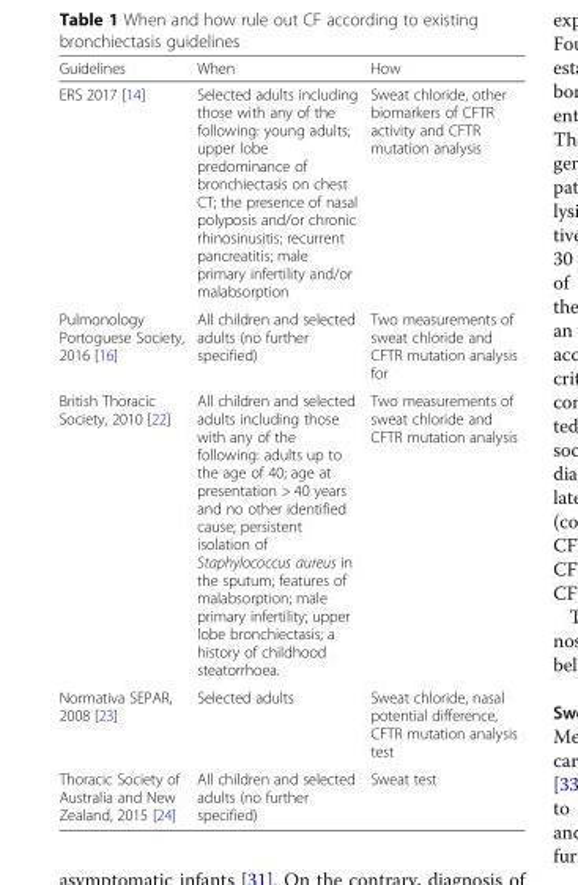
<table><thead><tr><td>Guidelines</td><td>When</td><td>How</td></tr></thead><tbody><tr><td>ERS 2017 [14]</td><td>Selected adults including those with any of the following: young adults; upper lobe predominance of bronchiectasis on chest CT; the presence of nasal polyposis and/or chronic rhinosinusitis; recurrent pancreatitis; male primary infertility and/or malabsorption</td><td>Sweat chloride, other biomarkers of CFTR activity and CFTR mutation analysis</td></tr><tr><td>Pulmonology Portoguese Society, 2016 [16]</td><td>All children and selected adults (no further specified)</td><td>Two measurements of sweat chloride and CFTR mutation analysis for</td></tr><tr><td>British Thoracic Society, 2010 [22]</td><td>All children and selected adults including those with any of the following: adults up to the age of 40; age at presentation &gt; 40 years and no other identified cause; persistent isolation of Staphylococcus aureus in the sputum; features of malabsorption; male primary infertility; upper lobe bronchiectasis; a history of childhood steatorrhoea.</td><td>Two measurements of sweat chloride and CFTR mutation analysis</td></tr><tr><td>Normativa SEPAR, 2008 [23]</td><td>Selected adults</td><td>Sweat chloride, nasal potential difference, CFTR mutation analysis test</td></tr><tr><td>Thoracic Society of Australia and New Zealand, 2015 [24]</td><td>All children and selected adults (no further specified)</td><td>Sweat test</td></tr></tbody></table>